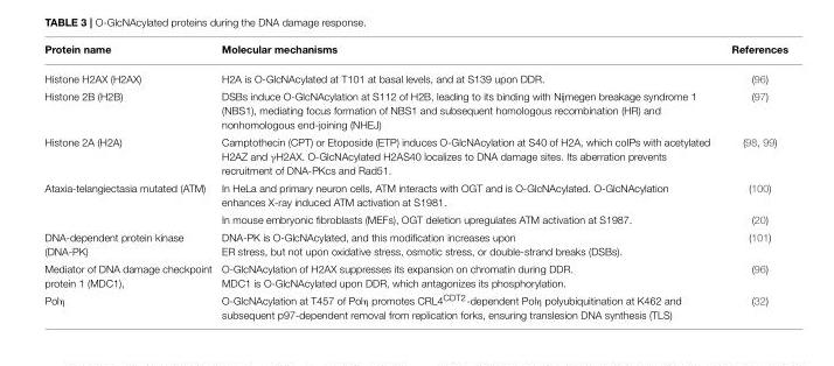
<table><thead><tr><td>Protein name</td><td>Molecular mechanisms</td><td>References</td></tr></thead><tbody><tr><td>Histone H2AX (H2AX)</td><td>H2A is O-GlcNAcylated at T101 at basal levels, and at S139 upon DDR.</td><td>(96)</td></tr><tr><td>Histone 2B (H2B)</td><td>DSBs induce O-GlcNAcylation at S112 of H2B, leading to its binding with Nijmegen breakage syndrome 1 (NBS1), mediating focus formation of NBS1 and subsequent homologous recombination (HR) and nonhomologous end-joining (NHEJ)</td><td>(97)</td></tr><tr><td>Histone 2A (H2A)</td><td>Camptothecin (CPT) or Etoposide (ETP) induces O-GlcNAcylation at S40 of H2A, which coIPs with acetylated H2AZ and γH2AX. O-GlcNAcylated H2AS40 localizes to DNA damage sites. Its aberration prevents recruitment of DNA-PKcs and Rad51.</td><td>(98, 99)</td></tr><tr><td rowspan="2">Ataxia-telangiectasia mutated (ATM)</td><td>In HeLa and primary neuron cells, ATM interacts with OGT and is O-GlcNAcylated. O-GlcNAcylation enhances X-ray induced ATM activation at S1981.</td><td>(100)</td></tr><tr><td>In mouse embryonic fibroblasts (MEFs), OGT deletion upregulates ATM activation at S1987.</td><td>(20)</td></tr><tr><td>DNA-dependent protein kinase (DNA-PK)</td><td>DNA-PK is O-GlcNAcylated, and this modification increases upon ER stress, but not upon oxidative stress, osmotic stress, or double-strand breaks (DSBs).</td><td>(101)</td></tr><tr><td>Mediator of DNA damage checkpoint protein 1 (MDC1),</td><td>O-GlcNAcylation of H2AX suppresses its expansion on chromatin during DDR. MDC1 is O-GlcNAcylated upon DDR, which antagonizes its phosphorylation.</td><td>(96)</td></tr><tr><td>Polη</td><td>O-GlcNAcylation at T457 of Polη promotes CRL4<sup>CDT2</sup>-dependent Polη polyubiquitination at K462 and subsequent p97-dependent removal from replication forks, ensuring translesion DNA synthesis (TLS)</td><td>(32)</td></tr></tbody></table>